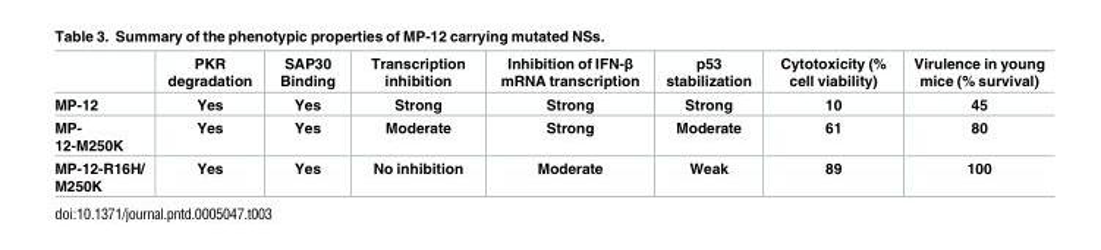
<table><thead><tr><td></td><td>PKR degradation</td><td>SAP30 Binding</td><td>Transcription inhibition</td><td>Inhibition of IFN-β mRNA transcription</td><td>p53 stabilization</td><td>Cytotoxicity (% cell viability)</td><td>Virulence in young mice (% survival)</td></tr></thead><tbody><tr><td>MP-12</td><td>Yes</td><td>Yes</td><td>Strong</td><td>Strong</td><td>Strong</td><td>10</td><td>45</td></tr><tr><td>MP- 12-M250K</td><td>Yes</td><td>Yes</td><td>Moderate</td><td>Strong</td><td>Moderate</td><td>61</td><td>80</td></tr><tr><td>MP-12-R16H/ M250K</td><td>Yes</td><td>Yes</td><td>No inhibition</td><td>Moderate</td><td>Weak</td><td>89</td><td>100</td></tr></tbody></table>